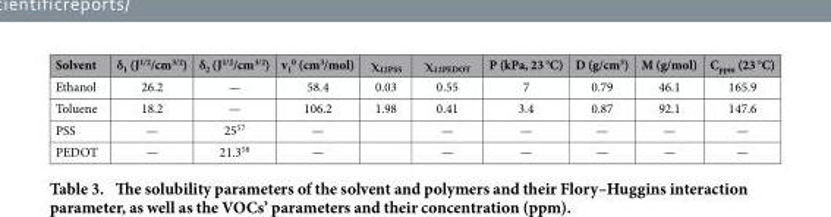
<table><thead><tr><td>Solvent</td><td>δ<sub>1</sub> (J<sup>1/2</sup>/cm<sup>3/2</sup>)</td><td>δ<sub>2</sub> (J<sup>1/2</sup>/cm<sup>3/2</sup>)</td><td>v<sub>1</sub> <sup>0</sup> (cm<sup>3</sup>/mol)</td><td>χ<sub>12PSS</sub></td><td>χ<sub>12PEDOT</sub></td><td>P (kPa, 23 °C)</td><td>D (g/cm<sup>3</sup>)</td><td>M (g/mol)</td><td>C<sub>ppm</sub> (23 °C)</td></tr></thead><tbody><tr><td>Ethanol</td><td>26.2</td><td>—</td><td>58.4</td><td>0.03</td><td>0.55</td><td>7</td><td>0.79</td><td>46.1</td><td>165.9</td></tr><tr><td>Toluene</td><td>18.2</td><td>—</td><td>106.2</td><td>1.98</td><td>0.41</td><td>3.4</td><td>0.87</td><td>92.1</td><td>147.6</td></tr><tr><td>PSS</td><td>—</td><td>25<sup>57</sup></td><td>—</td><td></td><td>—</td><td>—</td><td>—</td><td>—</td><td>—</td></tr><tr><td>PEDOT</td><td>—</td><td>21.3<sup>58</sup></td><td>—</td><td></td><td>—</td><td>—</td><td>—</td><td>—</td><td>—</td></tr></tbody></table>